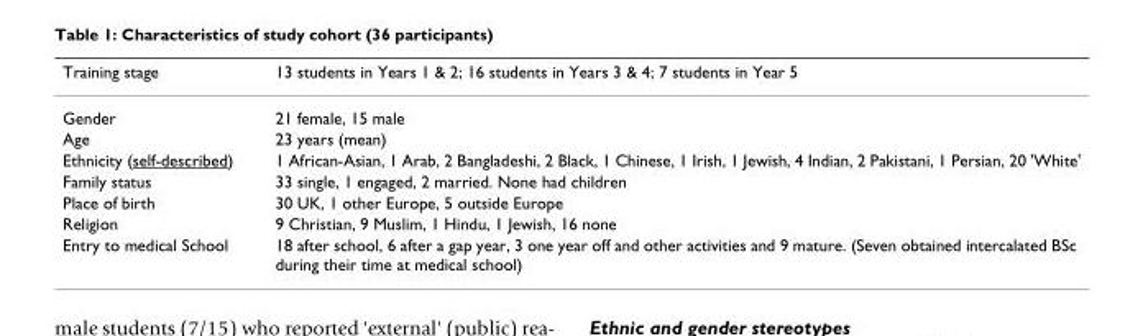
<table><thead><tr><td>Training stage</td><td>13 students in Years 1 &amp; 2; 16 students in Years 3 &amp; 4; 7 students in Year 5</td></tr></thead><tbody><tr><td>Gender</td><td>21 female, 15 male</td></tr><tr><td>Age</td><td>23 years (mean)</td></tr><tr><td>Ethnicity (self-described)</td><td>1 African-Asian, 1 Arab, 2 Bangladeshi, 2 Black, 1 Chinese, 1 Irish, 1 Jewish, 4 Indian, 2 Pakistani, 1 Persian, 20 &#x27;White&#x27;</td></tr><tr><td>Family status</td><td>33 single, 1 engaged, 2 married. None had children</td></tr><tr><td>Place of birth</td><td>30 UK, 1 other Europe, 5 outside Europe</td></tr><tr><td>Religion</td><td>9 Christian, 9 Muslim, 1 Hindu, 1 Jewish, 16 none</td></tr><tr><td>Entry to medical School</td><td>18 after school, 6 after a gap year, 3 one year off and other activities and 9 mature. (Seven obtained intercalated BSc during their time at medical school)</td></tr></tbody></table>